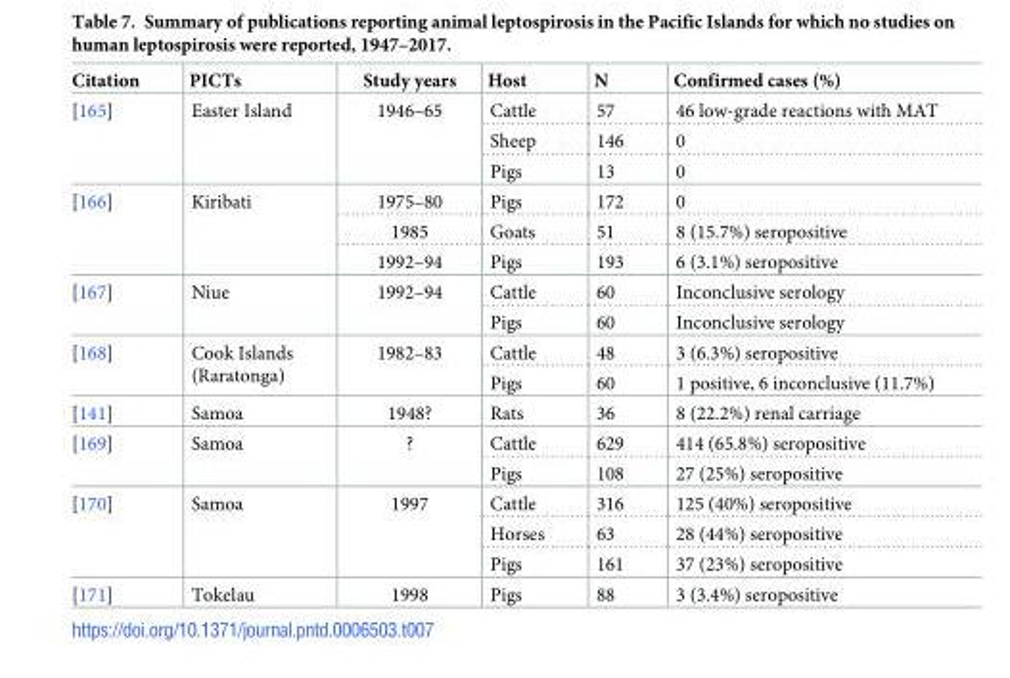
<table><thead><tr><td>Citation</td><td>PICTs</td><td>Study years</td><td>Host</td><td>N</td><td>Confirmed cases (%)</td></tr></thead><tbody><tr><td rowspan="3">[165]</td><td rowspan="3">Easter Island</td><td rowspan="3">1946–65</td><td>Cattle</td><td>57</td><td>46 low-grade reactions with MAT</td></tr><tr><td>Sheep</td><td>146</td><td>0</td></tr><tr><td>Pigs</td><td>13</td><td>0</td></tr><tr><td rowspan="3">[166]</td><td rowspan="3">Kiribati</td><td>1975–80</td><td>Pigs</td><td>172</td><td>0</td></tr><tr><td>1985</td><td>Goats</td><td>51</td><td>8 (15.7%) seropositive</td></tr><tr><td>1992–94</td><td>Pigs</td><td>193</td><td>6 (3.1%) seropositive</td></tr><tr><td rowspan="2">[167]</td><td rowspan="2">Niue</td><td rowspan="2">1992–94</td><td>Cattle</td><td>60</td><td>Inconclusive serology</td></tr><tr><td>Pigs</td><td>60</td><td>Inconclusive serology</td></tr><tr><td rowspan="2">[168]</td><td rowspan="2">Cook Islands (Raratonga)</td><td rowspan="2">1982–83</td><td>Cattle</td><td>48</td><td>3 (6.3%) seropositive</td></tr><tr><td>Pigs</td><td>60</td><td>1 positive, 6 inconclusive (11.7%)</td></tr><tr><td>[141]</td><td>Samoa</td><td>1948?</td><td>Rats</td><td>36</td><td>8 (22.2%) renal carriage</td></tr><tr><td rowspan="2">[169]</td><td rowspan="2">Samoa</td><td rowspan="2">?</td><td>Cattle</td><td>629</td><td>414 (65.8%) seropositive</td></tr><tr><td>Pigs</td><td>108</td><td>27 (25%) seropositive</td></tr><tr><td rowspan="3">[170]</td><td rowspan="3">Samoa</td><td rowspan="3">1997</td><td>Cattle</td><td>316</td><td>125 (40%) seropositive</td></tr><tr><td>Horses</td><td>63</td><td>28 (44%) seropositive</td></tr><tr><td>Pigs</td><td>161</td><td>37 (23%) seropositive</td></tr><tr><td>[171]</td><td>Tokelau</td><td>1998</td><td>Pigs</td><td>88</td><td>3 (3.4%) seropositive</td></tr></tbody></table>